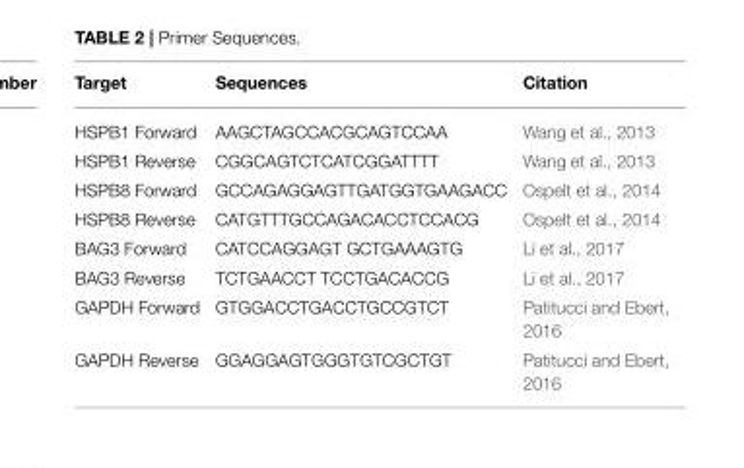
<table><thead><tr><td>Target</td><td>Sequences</td><td>Citation</td></tr></thead><tbody><tr><td>HSPB1 Forward</td><td>AAGCTAGCCACGCAGTCCAA</td><td>Wang et al., 2013</td></tr><tr><td>HSPB1 Reverse</td><td>CGGCAGTCTCATCGGATTTT</td><td>Wang et al., 2013</td></tr><tr><td>HSPB8 Forward</td><td>GCCAGAGGAGTTGATGGTGAAGACC</td><td>Ospelt et al., 2014</td></tr><tr><td>HSPB8 Reverse</td><td>CATGTTTGCCAGACACCTCCACG</td><td>Ospelt et al., 2014</td></tr><tr><td>BAG3 Forward</td><td>CATCCAGGAGT GCTGAAAGTG</td><td>Li et al., 2017</td></tr><tr><td>BAG3 Reverse</td><td>TCTGAACCT TCCTGACACCG</td><td>Li et al., 2017</td></tr><tr><td>GAPDH Forward</td><td>GTGGACCTGACCTGCCGTCT</td><td>Patitucci and Ebert, 2016</td></tr><tr><td>GAPDH Reverse</td><td>GGAGGAGTGGGTGTCGCTGT</td><td>Patitucci and Ebert, 2016</td></tr></tbody></table>